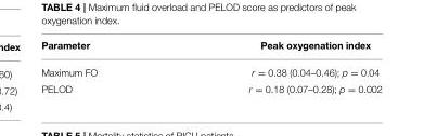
<table><thead><tr><td>Parameter</td><td>Peak oxygenation index</td></tr></thead><tbody><tr><td>Maximum FO</td><td>r = 0.38 (0.04–0.46); p = 0.04</td></tr><tr><td>PELOD</td><td>r = 0.18 (0.07–0.28); p = 0.002</td></tr></tbody></table>